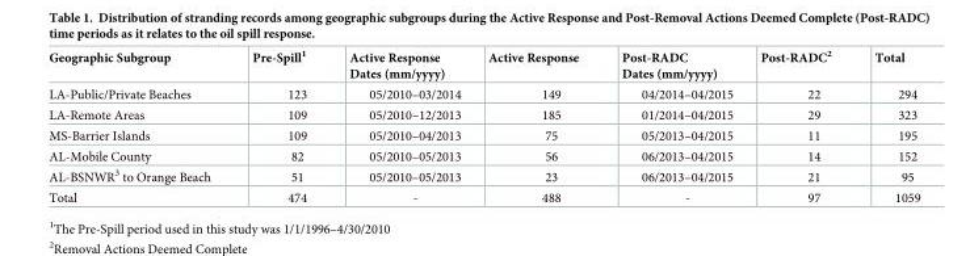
<table><thead><tr><td>Geographic Subgroup</td><td>Pre-Spill<sup>1</sup></td><td>Active Response Dates (mm/yyyy)</td><td>Active Response</td><td>Post-RADC Dates (mm/yyyy)</td><td>Post-RADC<sup>2</sup></td><td>Total</td></tr></thead><tbody><tr><td>LA-Public/Private Beaches</td><td>123</td><td>05/2010–03/2014</td><td>149</td><td>04/2014–04/2015</td><td>22</td><td>294</td></tr><tr><td>LA-Remote Areas</td><td>109</td><td>05/2010–12/2013</td><td>185</td><td>01/2014–04/2015</td><td>29</td><td>323</td></tr><tr><td>MS-Barrier Islands</td><td>109</td><td>05/2010–04/2013</td><td>75</td><td>05/2013–04/2015</td><td>11</td><td>195</td></tr><tr><td>AL-Mobile County</td><td>82</td><td>05/2010–05/2013</td><td>56</td><td>06/2013–04/2015</td><td>14</td><td>152</td></tr><tr><td>AL-BSNWR<sup>3</sup> to Orange Beach</td><td>51</td><td>05/2010–05/2013</td><td>23</td><td>06/2013–04/2015</td><td>21</td><td>95</td></tr><tr><td>Total</td><td>474</td><td>-</td><td>488</td><td>-</td><td>97</td><td>1059</td></tr></tbody></table>